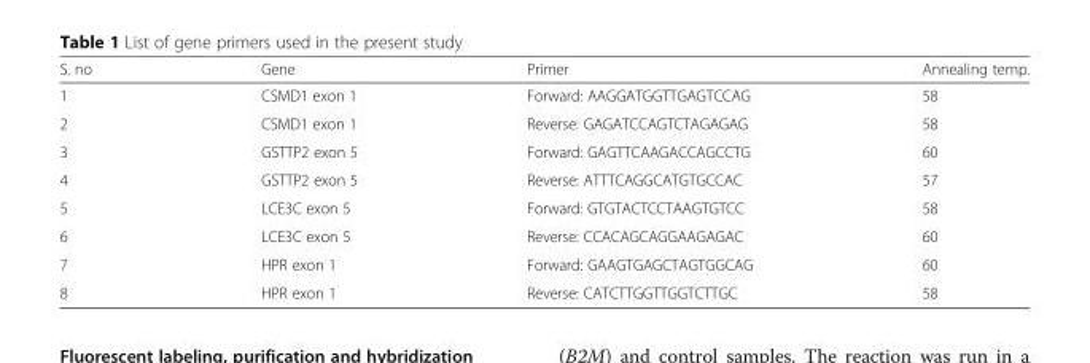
<table><thead><tr><td>S. no</td><td>Gene</td><td>Primer</td><td>Annealing temp.</td></tr></thead><tbody><tr><td>1</td><td>CSMD1 exon 1</td><td>Forward: AAGGATGGTTGAGTCCAG</td><td>58</td></tr><tr><td>2</td><td>CSMD1 exon 1</td><td>Reverse: GAGATCCAGTCTAGAGAG</td><td>58</td></tr><tr><td>3</td><td>GSTTP2 exon 5</td><td>Forward: GAGTTCAAGACCAGCCTG</td><td>60</td></tr><tr><td>4</td><td>GSTTP2 exon 5</td><td>Reverse: ATTTCAGGCATGTGCCAC</td><td>57</td></tr><tr><td>5</td><td>LCE3C exon 5</td><td>Forward: GTGTACTCCTAAGTGTCC</td><td>58</td></tr><tr><td>6</td><td>LCE3C exon 5</td><td>Reverse: CCACAGCAGGAAGAGAC</td><td>60</td></tr><tr><td>7</td><td>HPR exon 1</td><td>Forward: GAAGTGAGCTAGTGGCAG</td><td>60</td></tr><tr><td>8</td><td>HPR exon 1</td><td>Reverse: CATCTTGGTTGGTCTTGC</td><td>58</td></tr></tbody></table>